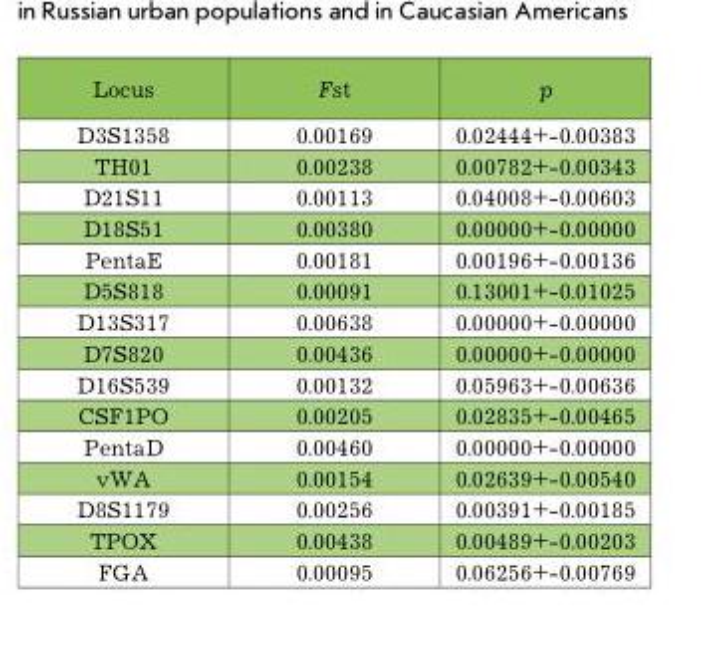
<table><thead><tr><td>Locus</td><td>Fst</td><td>p</td></tr></thead><tbody><tr><td>D3S1358</td><td>0.00169</td><td>0.02444+-0.00383</td></tr><tr><td>TH01</td><td>0.00238</td><td>0.00782+-0.00343</td></tr><tr><td>D21S11</td><td>0.00113</td><td>0.04008+-0.00603</td></tr><tr><td>D18S51</td><td>0.00380</td><td>0.00000+-0.00000</td></tr><tr><td>PentaE</td><td>0.00181</td><td>0.00196+-0.00136</td></tr><tr><td>D5S818</td><td>0.00091</td><td>0.13001+-0.01025</td></tr><tr><td>D13S317</td><td>0.00638</td><td>0.00000+-0.00000</td></tr><tr><td>D7S820</td><td>0.00436</td><td>0.00000+-0.00000</td></tr><tr><td>D16S539</td><td>0.00132</td><td>0.05963+-0.00636</td></tr><tr><td>CSF1PO</td><td>0.00205</td><td>0.02835+-0.00465</td></tr><tr><td>PentaD</td><td>0.00460</td><td>0.00000+-0.00000</td></tr><tr><td>vWA</td><td>0.00154</td><td>0.02639+-0.00540</td></tr><tr><td>D8S1179</td><td>0.00256</td><td>0.00391+-0.00185</td></tr><tr><td>TPOX</td><td>0.00438</td><td>0.00489+-0.00203</td></tr><tr><td>FGA</td><td>0.00095</td><td>0.06256+-0.00769</td></tr></tbody></table>